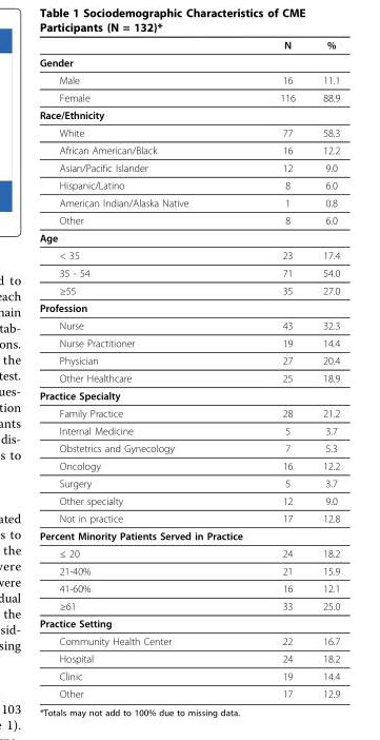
<table><thead><tr><td></td><td>N</td><td>%</td></tr></thead><tbody><tr><td colspan="3">Gender</td></tr><tr><td>Male</td><td>16</td><td>11.1</td></tr><tr><td>Female</td><td>116</td><td>88.9</td></tr><tr><td colspan="3">Race/Ethnicity</td></tr><tr><td>White</td><td>77</td><td>58.3</td></tr><tr><td>African American/Black</td><td>16</td><td>12.2</td></tr><tr><td>Asian/Pacific Islander</td><td>12</td><td>9.0</td></tr><tr><td>Hispanic/Latino</td><td>8</td><td>6.0</td></tr><tr><td>American Indian/Alaska Native</td><td>1</td><td>0.8</td></tr><tr><td>Other</td><td>8</td><td>6.0</td></tr><tr><td colspan="3">Age</td></tr><tr><td>&lt; 35</td><td>23</td><td>17.4</td></tr><tr><td>35 - 54</td><td>71</td><td>54.0</td></tr><tr><td>≥55</td><td>35</td><td>27.0</td></tr><tr><td colspan="3">Profession</td></tr><tr><td>Nurse</td><td>43</td><td>32.3</td></tr><tr><td>Nurse Practitioner</td><td>19</td><td>14.4</td></tr><tr><td>Physician</td><td>27</td><td>20.4</td></tr><tr><td>Other Healthcare</td><td>25</td><td>18.9</td></tr><tr><td colspan="3">Practice Specialty</td></tr><tr><td>Family Practice</td><td>28</td><td>21.2</td></tr><tr><td>Internal Medicine</td><td>5</td><td>3.7</td></tr><tr><td>Obstetrics and Gynecology</td><td>7</td><td>5.3</td></tr><tr><td>Oncology</td><td>16</td><td>12.2</td></tr><tr><td>Surgery</td><td>5</td><td>3.7</td></tr><tr><td>Other specialty</td><td>12</td><td>9.0</td></tr><tr><td>Not in practice</td><td>17</td><td>12.8</td></tr><tr><td colspan="3">Percent Minority Patients Served in Practice</td></tr><tr><td>≤ 20</td><td>24</td><td>18.2</td></tr><tr><td>21-40%</td><td>21</td><td>15.9</td></tr><tr><td>41-60%</td><td>16</td><td>12.1</td></tr><tr><td>≥61</td><td>33</td><td>25.0</td></tr><tr><td colspan="3">Practice Setting</td></tr><tr><td>Community Health Center</td><td>22</td><td>16.7</td></tr><tr><td>Hospital</td><td>24</td><td>18.2</td></tr><tr><td>Clinic</td><td>19</td><td>14.4</td></tr><tr><td>Other</td><td>17</td><td>12.9</td></tr></tbody></table>